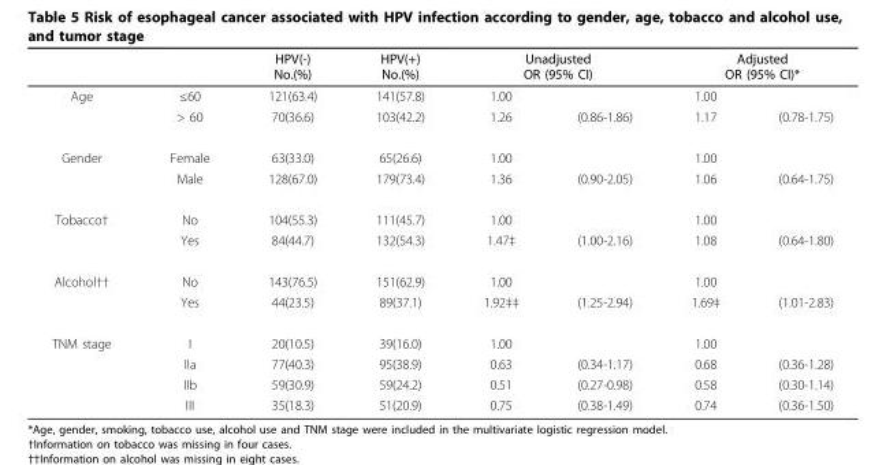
<table><thead><tr><td rowspan="2">Age</td><td rowspan="2">≤60</td><td rowspan="2">HPV(-) No.(%) 121(63.4)</td><td rowspan="2">HPV(+) No.(%) 141(57.8)</td><td colspan="2">Unadjusted OR (95% CI)</td><td colspan="2">Adjusted OR (95% CI)*</td></tr><tr><td>1.00</td><td></td><td>1.00</td><td></td></tr></thead><tbody><tr><td></td><td>&gt; 60</td><td>70(36.6)</td><td>103(42.2)</td><td>1.26</td><td>(0.86-1.86)</td><td>1.17</td><td>(0.78-1.75)</td></tr><tr><td rowspan="2">Gender</td><td>Female</td><td>63(33.0)</td><td>65(26.6)</td><td>1.00</td><td></td><td>1.00</td><td></td></tr><tr><td>Male</td><td>128(67.0)</td><td>179(73.4)</td><td>1.36</td><td>(0.90-2.05)</td><td>1.06</td><td>(0.64-1.75)</td></tr><tr><td rowspan="2">Tobacco†</td><td>No</td><td>104(55.3)</td><td>111(45.7)</td><td>1.00</td><td></td><td>1.00</td><td></td></tr><tr><td>Yes</td><td>84(44.7)</td><td>132(54.3)</td><td>1.47‡</td><td>(1.00-2.16)</td><td>1.08</td><td>(0.64-1.80)</td></tr><tr><td rowspan="2">Alcohol††</td><td>No</td><td>143(76.5)</td><td>151(62.9)</td><td>1.00</td><td></td><td>1.00</td><td></td></tr><tr><td>Yes</td><td>44(23.5)</td><td>89(37.1)</td><td>1.92‡‡</td><td>(1.25-2.94)</td><td>1.69‡</td><td>(1.01-2.83)</td></tr><tr><td rowspan="4">TNM stage</td><td>I</td><td>20(10.5)</td><td>39(16.0)</td><td>1.00</td><td></td><td>1.00</td><td></td></tr><tr><td>IIa</td><td>77(40.3)</td><td>95(38.9)</td><td>0.63</td><td>(0.34-1.17)</td><td>0.68</td><td>(0.36-1.28)</td></tr><tr><td>IIb</td><td>59(30.9)</td><td>59(24.2)</td><td>0.51</td><td>(0.27-0.98)</td><td>0.58</td><td>(0.30-1.14)</td></tr><tr><td>III</td><td>35(18.3)</td><td>51(20.9)</td><td>0.75</td><td>(0.38-1.49)</td><td>0.74</td><td>(0.36-1.50)</td></tr></tbody></table>